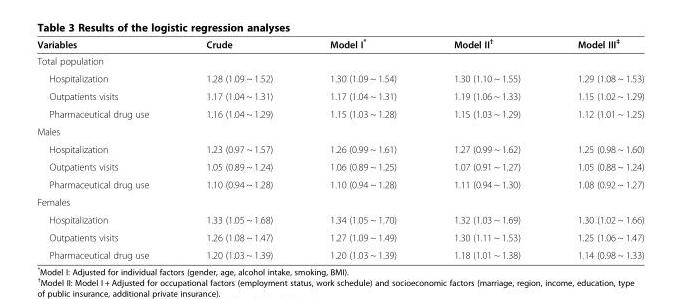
<table><thead><tr><td>Variables</td><td>Crude</td><td>Model I*</td><td>Model II<sup>†</sup></td><td>Model III<sup>‡</sup></td></tr></thead><tbody><tr><td colspan="5">Total population</td></tr><tr><td>Hospitalization</td><td>1.28 (1.09 ~ 1.52)</td><td>1.30 (1.09 ~ 1.54)</td><td>1.30 (1.10 ~ 1.55)</td><td>1.29 (1.08 ~ 1.53)</td></tr><tr><td>Outpatients visits</td><td>1.17 (1.04 ~ 1.31)</td><td>1.17 (1.04 ~ 1.31)</td><td>1.19 (1.06 ~ 1.33)</td><td>1.15 (1.02 ~ 1.29)</td></tr><tr><td>Pharmaceutical drug use</td><td>1.16 (1.04 ~ 1.29)</td><td>1.15 (1.03 ~ 1.28)</td><td>1.15 (1.03 ~ 1.29)</td><td>1.12 (1.01 ~ 1.25)</td></tr><tr><td colspan="5">Males</td></tr><tr><td>Hospitalization</td><td>1.23 (0.97 ~ 1.57)</td><td>1.26 (0.99 ~ 1.61)</td><td>1.27 (0.99 ~ 1.62)</td><td>1.25 (0.98 ~ 1.60)</td></tr><tr><td>Outpatients visits</td><td>1.05 (0.89 ~ 1.24)</td><td>1.06 (0.89 ~ 1.25)</td><td>1.07 (0.91 ~ 1.27)</td><td>1.05 (0.88 ~ 1.24)</td></tr><tr><td>Pharmaceutical drug use</td><td>1.10 (0.94 ~ 1.28)</td><td>1.10 (0.94 ~ 1.28)</td><td>1.11 (0.94 ~ 1.30)</td><td>1.08 (0.92 ~ 1.27)</td></tr><tr><td colspan="5">Females</td></tr><tr><td>Hospitalization</td><td>1.33 (1.05 ~ 1.68)</td><td>1.34 (1.05 ~ 1.70)</td><td>1.32 (1.03 ~ 1.69)</td><td>1.30 (1.02 ~ 1.66)</td></tr><tr><td>Outpatients visits</td><td>1.26 (1.08 ~ 1.47)</td><td>1.27 (1.09 ~ 1.49)</td><td>1.30 (1.11 ~ 1.53)</td><td>1.25 (1.06 ~ 1.47)</td></tr><tr><td>Pharmaceutical drug use</td><td>1.20 (1.03 ~ 1.39)</td><td>1.20 (1.03 ~ 1.39)</td><td>1.18 (1.01 ~ 1.38)</td><td>1.14 (0.98 ~ 1.33)</td></tr></tbody></table>